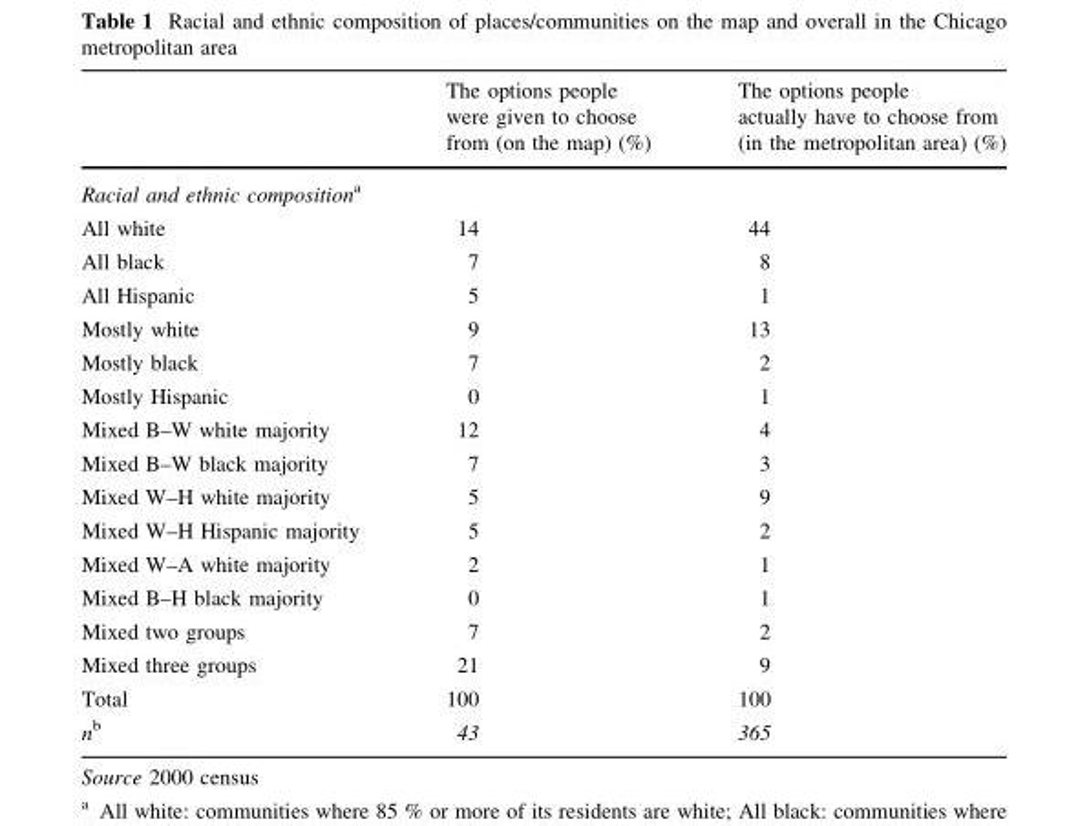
<table><thead><tr><td></td><td>The options people were given to choose from (on the map) (%)</td><td>The options people actually have to choose from (in the metropolitan area) (%)</td></tr></thead><tbody><tr><td colspan="3">Racial and ethnic composition<sup>a</sup></td></tr><tr><td>All white</td><td>14</td><td>44</td></tr><tr><td>All black</td><td>7</td><td>8</td></tr><tr><td>All Hispanic</td><td>5</td><td>1</td></tr><tr><td>Mostly white</td><td>9</td><td>13</td></tr><tr><td>Mostly black</td><td>7</td><td>2</td></tr><tr><td>Mostly Hispanic</td><td>0</td><td>1</td></tr><tr><td>Mixed B–W white majority</td><td>12</td><td>4</td></tr><tr><td>Mixed B–W black majority</td><td>7</td><td>3</td></tr><tr><td>Mixed W–H white majority</td><td>5</td><td>9</td></tr><tr><td>Mixed W–H Hispanic majority</td><td>5</td><td>2</td></tr><tr><td>Mixed W–A white majority</td><td>2</td><td>1</td></tr><tr><td>Mixed B–H black majority</td><td>0</td><td>1</td></tr><tr><td>Mixed two groups</td><td>7</td><td>2</td></tr><tr><td>Mixed three groups</td><td>21</td><td>9</td></tr><tr><td>Total</td><td>100</td><td>100</td></tr><tr><td>n<sup>b</sup></td><td>43</td><td>365</td></tr></tbody></table>